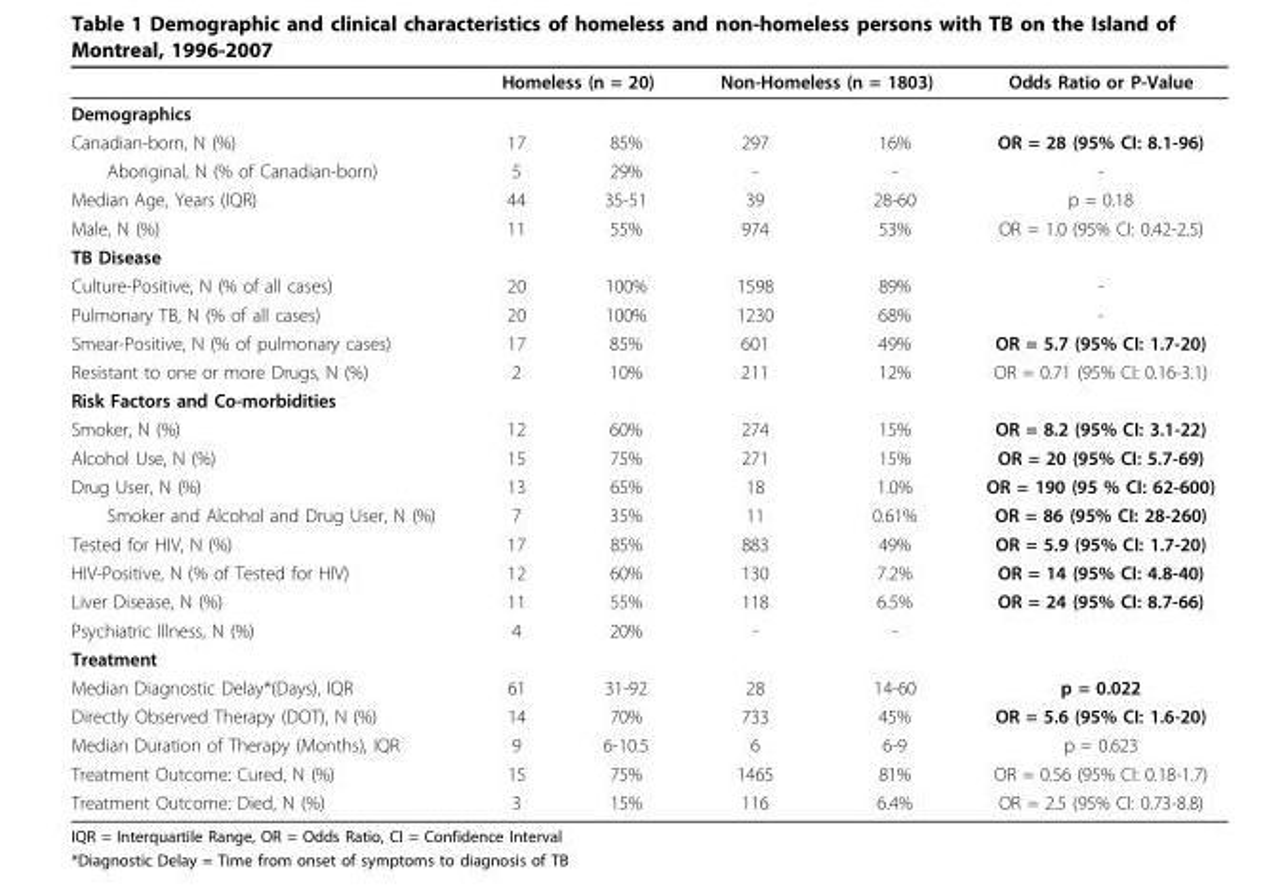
<table><thead><tr><td rowspan="2">Demographics</td><td colspan="2">Homeless (n = 20)</td><td colspan="2">Non-Homeless (n = 1803)</td><td rowspan="2">Odds Ratio or P-Value</td></tr><tr><td></td><td></td><td></td><td></td></tr></thead><tbody><tr><td>Canadian-born, N (%)</td><td>17</td><td>85%</td><td>297</td><td>16%</td><td>OR = 28 (95% CI: 8.1-96)</td></tr><tr><td>Aboriginal, N (% of Canadian-born)</td><td>5</td><td>29%</td><td>-</td><td>-</td><td>-</td></tr><tr><td>Median Age, Years (IQR)</td><td>44</td><td>35-51</td><td>39</td><td>28-60</td><td>p = 0.18</td></tr><tr><td>Male, N (%)</td><td>11</td><td>55%</td><td>974</td><td>53%</td><td>OR = 1.0 (95% CI: 0.42-2.5)</td></tr><tr><td colspan="6">TB Disease</td></tr><tr><td>Culture-Positive, N (% of all cases)</td><td>20</td><td>100%</td><td>1598</td><td>89%</td><td>-</td></tr><tr><td>Pulmonary TB, N (% of all cases)</td><td>20</td><td>100%</td><td>1230</td><td>68%</td><td>-</td></tr><tr><td>Smear-Positive, N (% of pulmonary cases)</td><td>17</td><td>85%</td><td>601</td><td>49%</td><td>OR = 5.7 (95% CI: 1.7-20)</td></tr><tr><td>Resistant to one or more Drugs, N (%)</td><td>2</td><td>10%</td><td>211</td><td>12%</td><td>OR = 0.71 (95% CI: 0.16-3.1)</td></tr><tr><td colspan="6">Risk Factors and Co-morbidities</td></tr><tr><td>Smoker, N (%)</td><td>12</td><td>60%</td><td>274</td><td>15%</td><td>OR = 8.2 (95% CI: 3.1-22)</td></tr><tr><td>Alcohol Use, N (%)</td><td>15</td><td>75%</td><td>271</td><td>15%</td><td>OR = 20 (95% CI: 5.7-69)</td></tr><tr><td>Drug User, N (%)</td><td>13</td><td>65%</td><td>18</td><td>1.0%</td><td>OR = 190 (95 % CI: 62-600)</td></tr><tr><td>Smoker and Alcohol and Drug User, N (%)</td><td>7</td><td>35%</td><td>11</td><td>0.61%</td><td>OR = 86 (95% CI: 28-260)</td></tr><tr><td>Tested for HIV, N (%)</td><td>17</td><td>85%</td><td>883</td><td>49%</td><td>OR = 5.9 (95% CI: 1.7-20)</td></tr><tr><td>HIV-Positive, N (% of Tested for HIV)</td><td>12</td><td>60%</td><td>130</td><td>7.2%</td><td>OR = 14 (95% CI: 4.8-40)</td></tr><tr><td>Liver Disease, N (%)</td><td>11</td><td>55%</td><td>118</td><td>6.5%</td><td>OR = 24 (95% CI: 8.7-66)</td></tr><tr><td>Psychiatric Illness, N (%)</td><td>4</td><td>20%</td><td>-</td><td>-</td><td></td></tr><tr><td colspan="6">Treatment</td></tr><tr><td>Median Diagnostic Delay*(Days), IQR</td><td>61</td><td>31-92</td><td>28</td><td>14-60</td><td>p = 0.022</td></tr><tr><td>Directly Observed Therapy (DOT), N (%)</td><td>14</td><td>70%</td><td>733</td><td>45%</td><td>OR = 5.6 (95% CI: 1.6-20)</td></tr><tr><td>Median Duration of Therapy (Months), IQR</td><td>9</td><td>6-10.5</td><td>6</td><td>6-9</td><td>p = 0.623</td></tr><tr><td>Treatment Outcome: Cured, N (%)</td><td>15</td><td>75%</td><td>1465</td><td>81%</td><td>OR = 0.56 (95% CI: 0.18-1.7)</td></tr><tr><td>Treatment Outcome: Died, N (%)</td><td>3</td><td>15%</td><td>116</td><td>6.4%</td><td>OR = 2.5 (95% CI: 0.73-8.8)</td></tr></tbody></table>